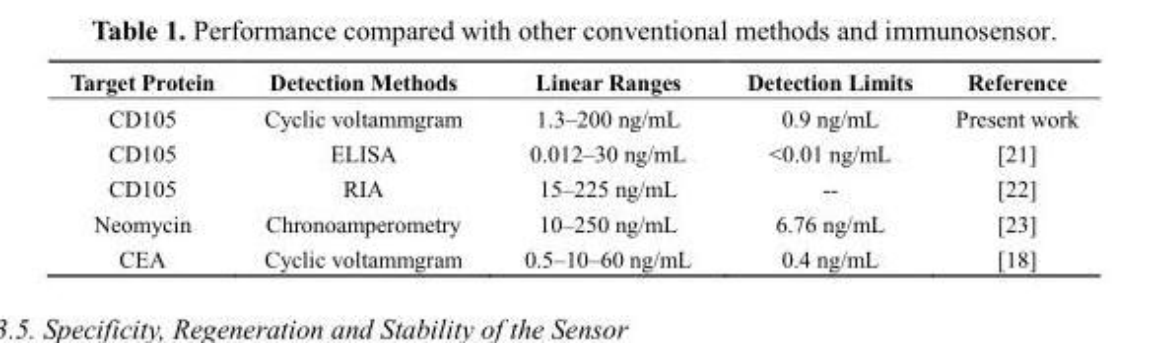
<table><thead><tr><td>Target Protein</td><td>Detection Methods</td><td>Linear Ranges</td><td>Detection Limits</td><td>Reference</td></tr></thead><tbody><tr><td>CD105</td><td>Cyclic voltammgram</td><td>1.3–200 ng/mL</td><td>0.9 ng/mL</td><td>Present work</td></tr><tr><td>CD105</td><td>ELISA</td><td>0.012–30 ng/mL</td><td>&lt;0.01 ng/mL</td><td>[21]</td></tr><tr><td>CD105</td><td>RIA</td><td>15–225 ng/mL</td><td>--</td><td>[22]</td></tr><tr><td>Neomycin</td><td>Chronoamperometry</td><td>10–250 ng/mL</td><td>6.76 ng/mL</td><td>[23]</td></tr><tr><td>CEA</td><td>Cyclic voltammgram</td><td>0.5–10–60 ng/mL</td><td>0.4 ng/mL</td><td>[18]</td></tr></tbody></table>